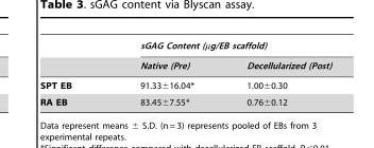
<table><thead><tr><td rowspan="2"></td><td colspan="2">sGAG Content (µg/EB scaffold)</td></tr><tr><td>Native (Pre)</td><td>Decellularized (Post)</td></tr></thead><tbody><tr><td>SPT EB</td><td>91.33±16.04*</td><td>1.00±0.30</td></tr><tr><td>RA EB</td><td>83.45±7.55*</td><td>0.76±0.12</td></tr></tbody></table>